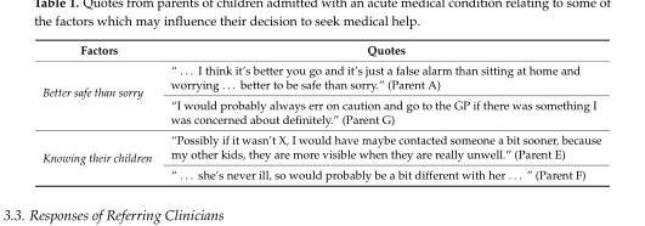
<table><thead><tr><td>Factors</td><td>Quotes</td></tr></thead><tbody><tr><td rowspan="2">Better safe than sorry</td><td>“ . . . I think it’s better you go and it’s just a false alarm than sitting at home and worrying . . . better to be safe than sorry.” (Parent A)</td></tr><tr><td>“I would probably always err on caution and go to the GP if there was something I was concerned about definitely.” (Parent G)</td></tr><tr><td rowspan="2">Knowing their children</td><td>“Possibly if it wasn’t X, I would have maybe contacted someone a bit sooner, because my other kids, they are more visible when they are really unwell.” (Parent E)</td></tr><tr><td>“ . . . she’s never ill, so would probably be a bit different with her . . . ” (Parent F)</td></tr></tbody></table>